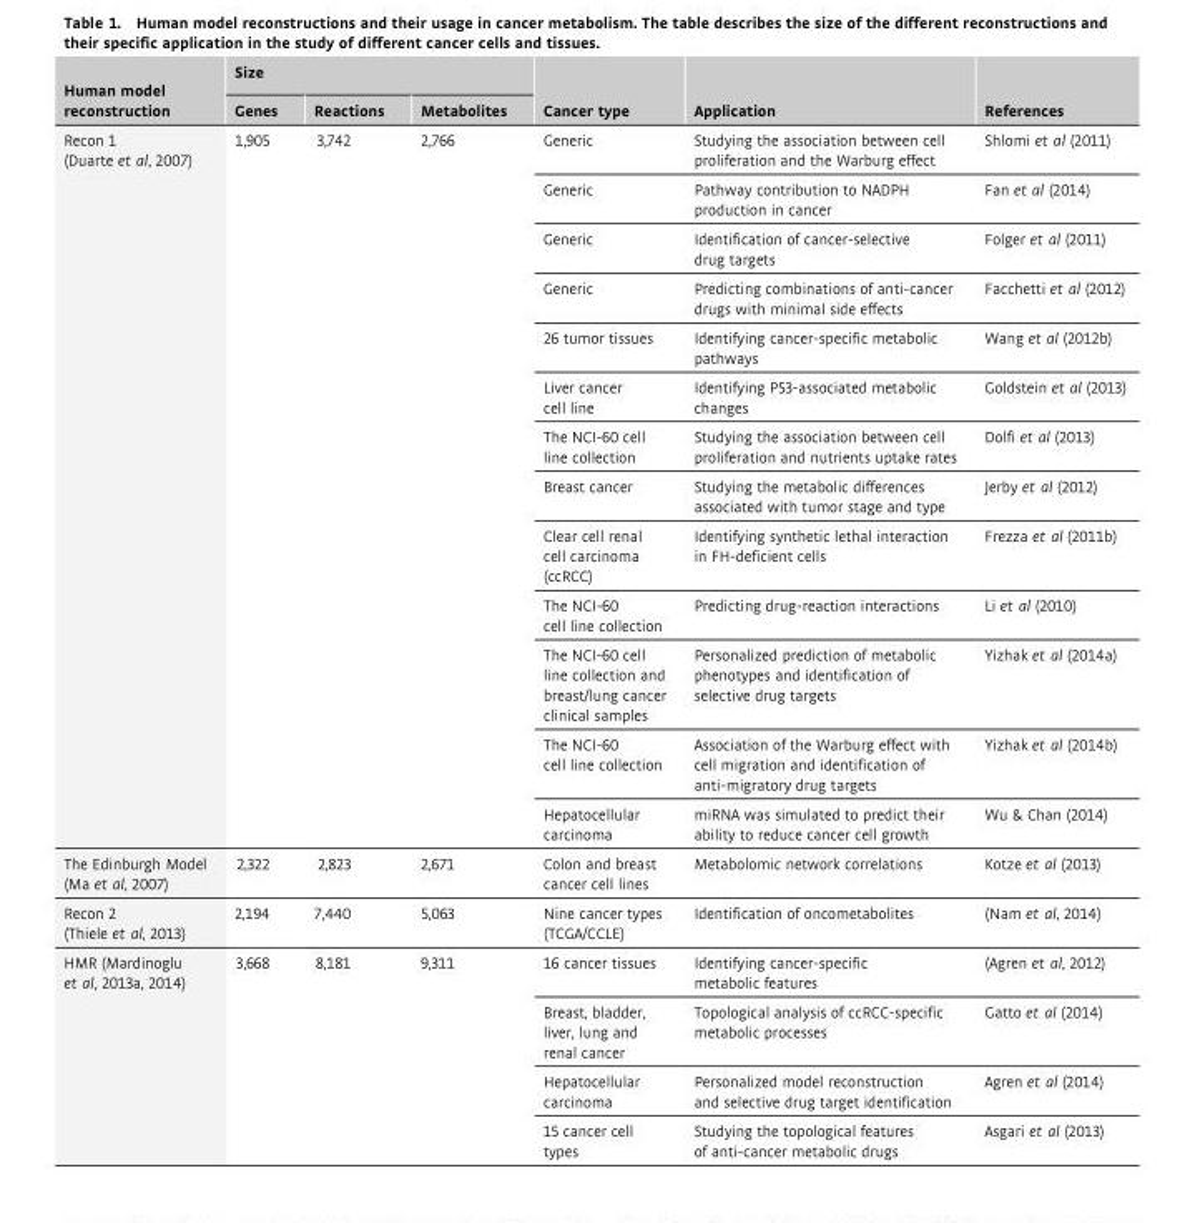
<table><thead><tr><td rowspan="2">Human model reconstruction</td><td colspan="3">Size</td><td rowspan="2">Cancer type</td><td rowspan="2">Application</td><td rowspan="2">References</td></tr><tr><td>Genes</td><td>Reactions</td><td>Metabolites</td></tr></thead><tbody><tr><td rowspan="13">Recon 1 (Duarte et al, 2007)</td><td rowspan="13">1,905</td><td rowspan="13">3,742</td><td rowspan="13">2,766</td><td>Generic</td><td>Studying the association between cell proliferation and the Warburg effect</td><td>Shlomi et al (2011)</td></tr><tr><td>Generic</td><td>Pathway contribution to NADPH production in cancer</td><td>Fan et al (2014)</td></tr><tr><td>Generic</td><td>Identification of cancer-selective drug targets</td><td>Folger et al (2011)</td></tr><tr><td>Generic</td><td>Predicting combinations of anti-cancer drugs with minimal side effects</td><td>Facchetti et al (2012)</td></tr><tr><td>26 tumor tissues</td><td>Identifying cancer-specific metabolic pathways</td><td>Wang et al (2012b)</td></tr><tr><td>Liver cancer cell line</td><td>Identifying P53-associated metabolic changes</td><td>Goldstein et al (2013)</td></tr><tr><td>The NCI-60 cell line collection</td><td>Studying the association between cell proliferation and nutrients uptake rates</td><td>Dolfi et al (2013)</td></tr><tr><td>Breast cancer</td><td>Studying the metabolic differences associated with tumor stage and type</td><td>Jerby et al (2012)</td></tr><tr><td>Clear cell renal cell carcinoma (ccRCC)</td><td>Identifying synthetic lethal interaction in FH-deficient cells</td><td>Frezza et al (2011b)</td></tr><tr><td>The NCI-60 cell line collection</td><td>Predicting drug-reaction interactions</td><td>Li et al (2010)</td></tr><tr><td>The NCI-60 cell line collection and breast/lung cancer clinical samples</td><td>Personalized prediction of metabolic phenotypes and identification of selective drug targets</td><td>Yizhak et al (2014a)</td></tr><tr><td>The NCI-60 cell line collection</td><td>Association of the Warburg effect with cell migration and identification of anti-migratory drug targets</td><td>Yizhak et al (2014b)</td></tr><tr><td>Hepatocellular carcinoma</td><td>miRNA was simulated to predict their ability to reduce cancer cell growth</td><td>Wu &amp; Chan (2014)</td></tr><tr><td>The Edinburgh Model (Ma et al, 2007)</td><td>2,322</td><td>2,823</td><td>2,671</td><td>Colon and breast cancer cell lines</td><td>Metabolomic network correlations</td><td>Kotze et al (2013)</td></tr><tr><td>Recon 2 (Thiele et al, 2013)</td><td>2,194</td><td>7,440</td><td>5,063</td><td>Nine cancer types (TCGA/CCLE)</td><td>Identification of oncometabolites</td><td>(Nam et al, 2014)</td></tr><tr><td rowspan="4">HMR (Mardinoglu et al, 2013a, 2014)</td><td rowspan="4">3,668</td><td rowspan="4">8,181</td><td rowspan="4">9,311</td><td>16 cancer tissues</td><td>Identifying cancer-specific metabolic features</td><td>(Agren et al, 2012)</td></tr><tr><td>Breast, bladder, liver, lung and renal cancer</td><td>Topological analysis of ccRCC-specific metabolic processes</td><td>Gatto et al (2014)</td></tr><tr><td>Hepatocellular carcinoma</td><td>Personalized model reconstruction and selective drug target identification</td><td>Agren et al (2014)</td></tr><tr><td>15 cancer cell types</td><td>Studying the topological features of anti-cancer metabolic drugs</td><td>Asgari et al (2013)</td></tr></tbody></table>